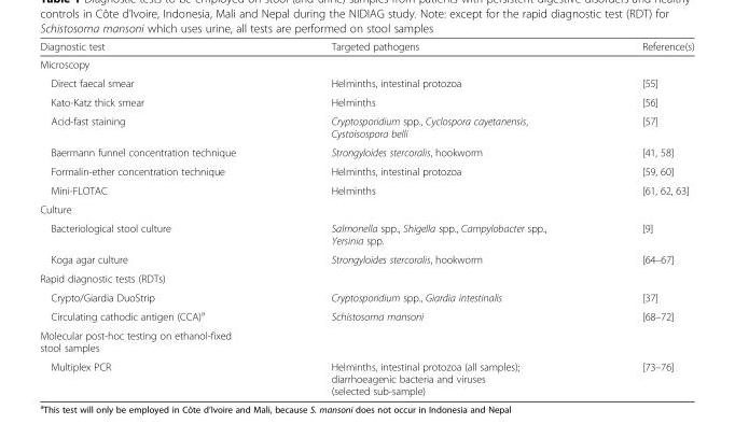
<table><thead><tr><td>Diagnostic test</td><td>Targeted pathogens</td><td>Reference(s)</td></tr></thead><tbody><tr><td colspan="3">Microscopy</td></tr><tr><td>Direct faecal smear</td><td>Helminths, intestinal protozoa</td><td>[55]</td></tr><tr><td>Kato-Katz thick smear</td><td>Helminths</td><td>[56]</td></tr><tr><td>Acid-fast staining</td><td>Cryptosporidium spp., Cyclospora cayetanensis, Cystoisospora belli</td><td>[57]</td></tr><tr><td>Baermann funnel concentration technique</td><td>Strongyloides stercoralis, hookworm</td><td>[41, 58]</td></tr><tr><td>Formalin-ether concentration technique</td><td>Helminths, intestinal protozoa</td><td>[59, 60]</td></tr><tr><td>Mini-FLOTAC</td><td>Helminths</td><td>[61, 62, 63]</td></tr><tr><td colspan="3">Culture</td></tr><tr><td>Bacteriological stool culture</td><td>Salmonella spp., Shigella spp., Campylobacter spp., Yersinia spp.</td><td>[9]</td></tr><tr><td>Koga agar culture</td><td>Strongyloides stercoralis, hookworm</td><td>[64–67]</td></tr><tr><td colspan="3">Rapid diagnostic tests (RDTs)</td></tr><tr><td>Crypto/Giardia DuoStrip</td><td>Cryptosporidium spp., Giardia intestinalis</td><td>[37]</td></tr><tr><td>Circulating cathodic antigen (CCA)<sup>a</sup></td><td>Schistosoma mansoni</td><td>[68–72]</td></tr><tr><td colspan="3">Molecular post-hoc testing on ethanol-fixed stool samples</td></tr><tr><td>Multiplex PCR</td><td>Helminths, intestinal protozoa (all samples); diarrhoeagenic bacteria and viruses (selected sub-sample)</td><td>[73–76]</td></tr></tbody></table>